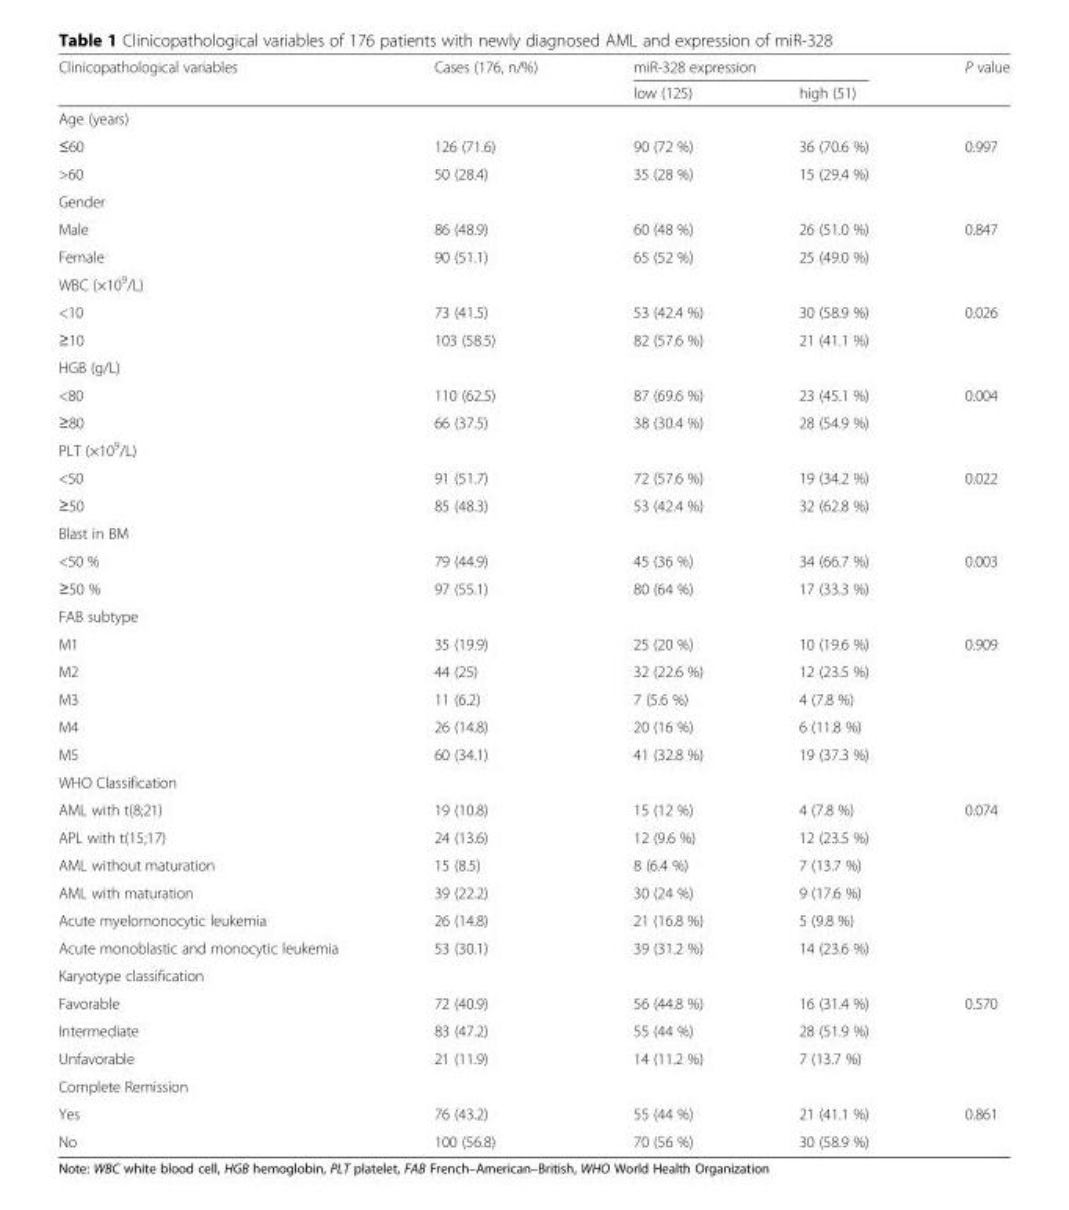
<table><thead><tr><td rowspan="2">Clinicopathological variables</td><td rowspan="2">Cases (176, n/%)</td><td colspan="2">miR-328 expression</td><td rowspan="2">P value</td></tr><tr><td>low (125)</td><td>high (51)</td></tr></thead><tbody><tr><td colspan="5">Age (years)</td></tr><tr><td>≤60</td><td>126 (71.6)</td><td>90 (72 %)</td><td>36 (70.6 %)</td><td rowspan="2">0.997</td></tr><tr><td>&gt;60</td><td>50 (28.4)</td><td>35 (28 %)</td><td>15 (29.4 %)</td></tr><tr><td colspan="5">Gender</td></tr><tr><td>Male</td><td>86 (48.9)</td><td>60 (48 %)</td><td>26 (51.0 %)</td><td rowspan="2">0.847</td></tr><tr><td>Female</td><td>90 (51.1)</td><td>65 (52 %)</td><td>25 (49.0 %)</td></tr><tr><td colspan="5">WBC (×10<sup>9</sup>/L)</td></tr><tr><td>&lt;10</td><td>73 (41.5)</td><td>53 (42.4 %)</td><td>30 (58.9 %)</td><td rowspan="2">0.026</td></tr><tr><td>≥10</td><td>103 (58.5)</td><td>82 (57.6 %)</td><td>21 (41.1 %)</td></tr><tr><td colspan="5">HGB (g/L)</td></tr><tr><td>&lt;80</td><td>110 (62.5)</td><td>87 (69.6 %)</td><td>23 (45.1 %)</td><td rowspan="2">0.004</td></tr><tr><td>≥80</td><td>66 (37.5)</td><td>38 (30.4 %)</td><td>28 (54.9 %)</td></tr><tr><td colspan="5">PLT (×10<sup>9</sup>/L)</td></tr><tr><td>&lt;50</td><td>91 (51.7)</td><td>72 (57.6 %)</td><td>19 (34.2 %)</td><td rowspan="2">0.022</td></tr><tr><td>≥50</td><td>85 (48.3)</td><td>53 (42.4 %)</td><td>32 (62.8 %)</td></tr><tr><td colspan="5">Blast in BM</td></tr><tr><td>&lt;50 %</td><td>79 (44.9)</td><td>45 (36 %)</td><td>34 (66.7 %)</td><td rowspan="2">0.003</td></tr><tr><td>≥50 %</td><td>97 (55.1)</td><td>80 (64 %)</td><td>17 (33.3 %)</td></tr><tr><td colspan="5">FAB subtype</td></tr><tr><td>M1</td><td>35 (19.9)</td><td>25 (20 %)</td><td>10 (19.6 %)</td><td rowspan="5">0.909</td></tr><tr><td>M2</td><td>44 (25)</td><td>32 (22.6 %)</td><td>12 (23.5 %)</td></tr><tr><td>M3</td><td>11 (6.2)</td><td>7 (5.6 %)</td><td>4 (7.8 %)</td></tr><tr><td>M4</td><td>26 (14.8)</td><td>20 (16 %)</td><td>6 (11.8 %)</td></tr><tr><td>M5</td><td>60 (34.1)</td><td>41 (32.8 %)</td><td>19 (37.3 %)</td></tr><tr><td colspan="5">WHO Classification</td></tr><tr><td>AML with t(8;21)</td><td>19 (10.8)</td><td>15 (12 %)</td><td>4 (7.8 %)</td><td rowspan="6">0.074</td></tr><tr><td>APL with t(15;17)</td><td>24 (13.6)</td><td>12 (9.6 %)</td><td>12 (23.5 %)</td></tr><tr><td>AML without maturation</td><td>15 (8.5)</td><td>8 (6.4 %)</td><td>7 (13.7 %)</td></tr><tr><td>AML with maturation</td><td>39 (22.2)</td><td>30 (24 %)</td><td>9 (17.6 %)</td></tr><tr><td>Acute myelomonocytic leukemia</td><td>26 (14.8)</td><td>21 (16.8 %)</td><td>5 (9.8 %)</td></tr><tr><td>Acute monoblastic and monocytic leukemia</td><td>53 (30.1)</td><td>39 (31.2 %)</td><td>14 (23.6 %)</td></tr><tr><td colspan="5">Karyotype classification</td></tr><tr><td>Favorable</td><td>72 (40.9)</td><td>56 (44.8 %)</td><td>16 (31.4 %)</td><td rowspan="3">0.570</td></tr><tr><td>Intermediate</td><td>83 (47.2)</td><td>55 (44 %)</td><td>28 (51.9 %)</td></tr><tr><td>Unfavorable</td><td>21 (11.9)</td><td>14 (11.2 %)</td><td>7 (13.7 %)</td></tr><tr><td colspan="5">Complete Remission</td></tr><tr><td>Yes</td><td>76 (43.2)</td><td>55 (44 %)</td><td>21 (41.1 %)</td><td rowspan="2">0.861</td></tr><tr><td>No</td><td>100 (56.8)</td><td>70 (56 %)</td><td>30 (58.9 %)</td></tr></tbody></table>